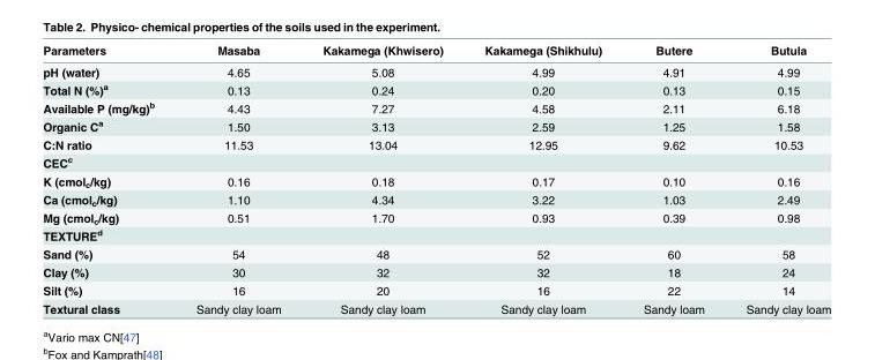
<table><thead><tr><td>Parameters</td><td>Masaba</td><td>Kakamega (Khwisero)</td><td>Kakamega (Shikhulu)</td><td>Butere</td><td>Butula</td></tr></thead><tbody><tr><td>pH (water)</td><td>4.65</td><td>5.08</td><td>4.99</td><td>4.91</td><td>4.99</td></tr><tr><td>Total N (%)<sup>a</sup></td><td>0.13</td><td>0.24</td><td>0.20</td><td>0.13</td><td>0.15</td></tr><tr><td>Available P (mg/kg)<sup>b</sup></td><td>4.43</td><td>7.27</td><td>4.58</td><td>2.11</td><td>6.18</td></tr><tr><td>Organic C<sup>a</sup></td><td>1.50</td><td>3.13</td><td>2.59</td><td>1.25</td><td>1.58</td></tr><tr><td>C:N ratio</td><td>11.53</td><td>13.04</td><td>12.95</td><td>9.62</td><td>10.53</td></tr><tr><td colspan="6">CEC<sup>c</sup></td></tr><tr><td>K (cmol<sub>c</sub>/kg)</td><td>0.16</td><td>0.18</td><td>0.17</td><td>0.10</td><td>0.16</td></tr><tr><td>Ca (cmol<sub>c</sub>/kg)</td><td>1.10</td><td>4.34</td><td>3.22</td><td>1.03</td><td>2.49</td></tr><tr><td>Mg (cmol<sub>c</sub>/kg)</td><td>0.51</td><td>1.70</td><td>0.93</td><td>0.39</td><td>0.98</td></tr><tr><td colspan="6">TEXTURE<sup>d</sup></td></tr><tr><td>Sand (%)</td><td>54</td><td>48</td><td>52</td><td>60</td><td>58</td></tr><tr><td>Clay (%)</td><td>30</td><td>32</td><td>32</td><td>18</td><td>24</td></tr><tr><td>Silt (%)</td><td>16</td><td>20</td><td>16</td><td>22</td><td>14</td></tr><tr><td>Textural class</td><td>Sandy clay loam</td><td>Sandy clay loam</td><td>Sandy clay loam</td><td>Sandy loam</td><td>Sandy clay loam</td></tr></tbody></table>